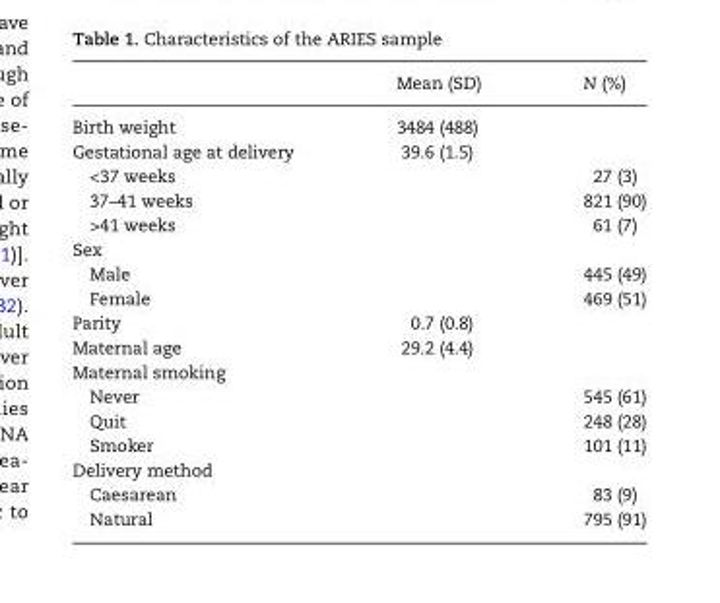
<table><thead><tr><td></td><td>Mean (SD)</td><td>N (%)</td></tr></thead><tbody><tr><td>Birth weight</td><td>3484 (488)</td><td></td></tr><tr><td>Gestational age at delivery</td><td>39.6 (1.5)</td><td></td></tr><tr><td>&lt;37 weeks</td><td></td><td>27 (3)</td></tr><tr><td>37–41 weeks</td><td></td><td>821 (90)</td></tr><tr><td>&gt;41 weeks</td><td></td><td>61 (7)</td></tr><tr><td colspan="3">Sex</td></tr><tr><td>Male</td><td></td><td>445 (49)</td></tr><tr><td>Female</td><td></td><td>469 (51)</td></tr><tr><td>Parity</td><td>0.7 (0.8)</td><td></td></tr><tr><td>Maternal age</td><td>29.2 (4.4)</td><td></td></tr><tr><td colspan="3">Maternal smoking</td></tr><tr><td>Never</td><td></td><td>545 (61)</td></tr><tr><td>Quit</td><td></td><td>248 (28)</td></tr><tr><td>Smoker</td><td></td><td>101 (11)</td></tr><tr><td colspan="3">Delivery method</td></tr><tr><td>Caesarean</td><td></td><td>83 (9)</td></tr><tr><td>Natural</td><td></td><td>795 (91)</td></tr></tbody></table>